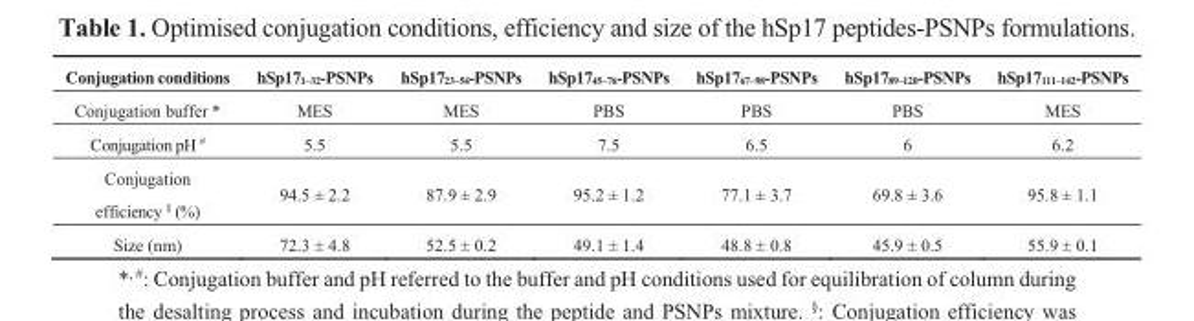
<table><thead><tr><td>Conjugation conditions</td><td>hSp17<sub>1–32</sub>-PSNPs</td><td>hSp17<sub>23–54</sub>-PSNPs</td><td>hSp17<sub>45–76</sub>-PSNPs</td><td>hSp17<sub>67–98</sub>-PSNPs</td><td>hSp17<sub>89–120</sub>-PSNPs</td><td>hSp17<sub>111–142</sub>-PSNPs</td></tr></thead><tbody><tr><td>Conjugation buffer *</td><td>MES</td><td>MES</td><td>PBS</td><td>PBS</td><td>PBS</td><td>MES</td></tr><tr><td>Conjugation pH <sup>#</sup></td><td>5.5</td><td>5.5</td><td>7.5</td><td>6.5</td><td>6</td><td>6.2</td></tr><tr><td>Conjugation efficiency <sup>§</sup> (%)</td><td>94.5 ± 2.2</td><td>87.9 ± 2.9</td><td>95.2 ± 1.2</td><td>77.1 ± 3.7</td><td>69.8 ± 3.6</td><td>95.8 ± 1.1</td></tr><tr><td>Size (nm)</td><td>72.3 ± 4.8</td><td>52.5 ± 0.2</td><td>49.1 ± 1.4</td><td>48.8 ± 0.8</td><td>45.9 ± 0.5</td><td>55.9 ± 0.1</td></tr></tbody></table>